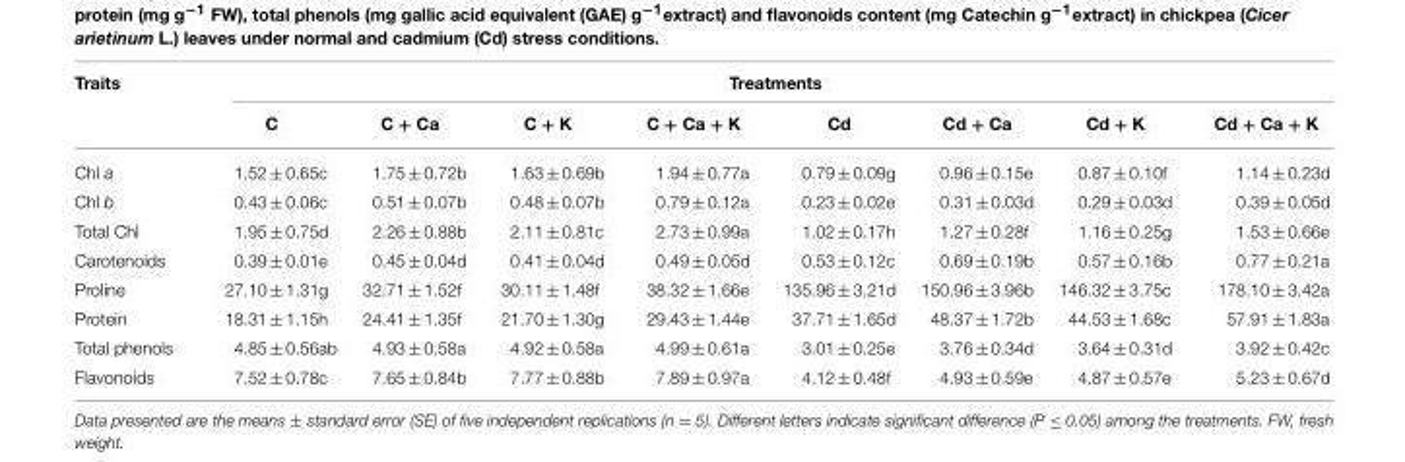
<table><thead><tr><td rowspan="2">Traits</td><td colspan="8">Treatments</td></tr><tr><td>C</td><td>C + Ca</td><td>C + K</td><td>C + Ca + K</td><td>Cd</td><td>Cd + Ca</td><td>Cd + K</td><td>Cd + Ca + K</td></tr></thead><tbody><tr><td>Chl a</td><td>1.52 ± 0.65c</td><td>1.75 ± 0.72b</td><td>1.63 ± 0.69b</td><td>1.94 ± 0.77a</td><td>0.79 ± 0.09g</td><td>0.96 ± 0.15e</td><td>0.87 ± 0.10f</td><td>1.14 ± 0.23d</td></tr><tr><td>Chl b</td><td>0.43 ± 0.06c</td><td>0.51 ± 0.07b</td><td>0.48 ± 0.07b</td><td>0.79 ± 0.12a</td><td>0.23 ± 0.02e</td><td>0.31 ± 0.03d</td><td>0.29 ± 0.03d</td><td>0.39 ± 0.05d</td></tr><tr><td>Total Chl</td><td>1.95 ± 0.75d</td><td>2.26 ± 0.88b</td><td>2.11 ± 0.81c</td><td>2.73 ± 0.99a</td><td>1.02 ± 0.17h</td><td>1.27 ± 0.28f</td><td>1.16 ± 0.25g</td><td>1.53 ± 0.66e</td></tr><tr><td>Carotenoids</td><td>0.39 ± 0.01e</td><td>0.45 ± 0.04d</td><td>0.41 ± 0.04d</td><td>0.49 ± 0.05d</td><td>0.53 ± 0.12c</td><td>0.69 ± 0.19b</td><td>0.57 ± 0.16b</td><td>0.77 ± 0.21a</td></tr><tr><td>Proline</td><td>27.10 ± 1.31g</td><td>32.71 ± 1.52f</td><td>30.11 ± 1.48f</td><td>38.32 ± 1.66e</td><td>135.96 ± 3.21d</td><td>150.96 ± 3.96b</td><td>146.32 ± 3.75c</td><td>178.10 ± 3.42a</td></tr><tr><td>Protein</td><td>18.31 ± 1.15h</td><td>24.41 ± 1.35f</td><td>21.70 ± 1.30g</td><td>29.43 ± 1.44e</td><td>37.71 ± 1.65d</td><td>48.37 ± 1.72b</td><td>44.53 ± 1.68c</td><td>57.91 ± 1.83a</td></tr><tr><td>Total phenols</td><td>4.85 ± 0.56ab</td><td>4.93 ± 0.58a</td><td>4.92 ± 0.58a</td><td>4.99 ± 0.61a</td><td>3.01 ± 0.25e</td><td>3.76 ± 0.34d</td><td>3.64 ± 0.31d</td><td>3.92 ± 0.42c</td></tr><tr><td>Flavonoids</td><td>7.52 ± 0.78c</td><td>7.65 ± 0.84b</td><td>7.77 ± 0.88b</td><td>7.89 ± 0.97a</td><td>4.12 ± 0.48f</td><td>4.93 ± 0.59e</td><td>4.87 ± 0.57e</td><td>5.23 ± 0.67d</td></tr></tbody></table>